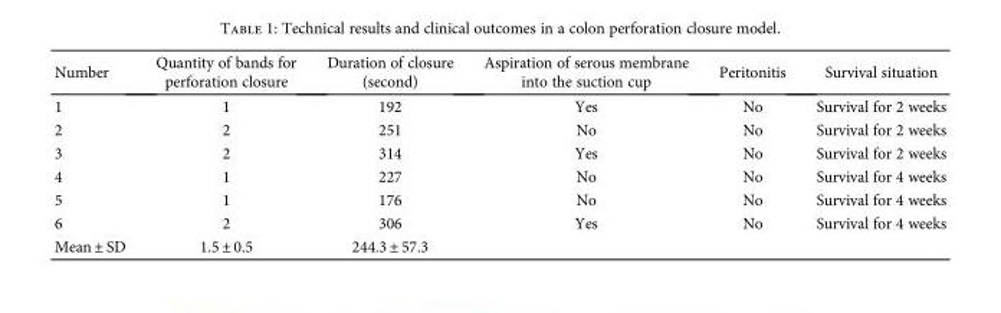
<table><thead><tr><td>Number</td><td>Quantity of bands for perforation closure</td><td>Duration of closure (second)</td><td>Aspiration of serous membrane into the suction cup</td><td>Peritonitis</td><td>Survival situation</td></tr></thead><tbody><tr><td>1</td><td>1</td><td>192</td><td>Yes</td><td>No</td><td>Survival for 2 weeks</td></tr><tr><td>2</td><td>2</td><td>251</td><td>No</td><td>No</td><td>Survival for 2 weeks</td></tr><tr><td>3</td><td>2</td><td>314</td><td>Yes</td><td>No</td><td>Survival for 2 weeks</td></tr><tr><td>4</td><td>1</td><td>227</td><td>No</td><td>No</td><td>Survival for 4 weeks</td></tr><tr><td>5</td><td>1</td><td>176</td><td>No</td><td>No</td><td>Survival for 4 weeks</td></tr><tr><td>6</td><td>2</td><td>306</td><td>Yes</td><td>No</td><td>Survival for 4 weeks</td></tr><tr><td>Mean ± SD</td><td>1.5 ± 0.5</td><td>244.3 ± 57.3</td><td></td><td></td><td></td></tr></tbody></table>